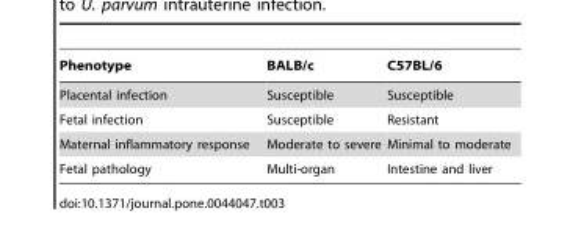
<table><thead><tr><td>Phenotype</td><td>BALB/c</td><td>C57BL/6</td></tr></thead><tbody><tr><td>Placental infection</td><td>Susceptible</td><td>Susceptible</td></tr><tr><td>Fetal infection</td><td>Susceptible</td><td>Resistant</td></tr><tr><td>Maternal inflammatory response</td><td>Moderate to severe</td><td>Minimal to moderate</td></tr><tr><td>Fetal pathology</td><td>Multi-organ</td><td>Intestine and liver</td></tr></tbody></table>